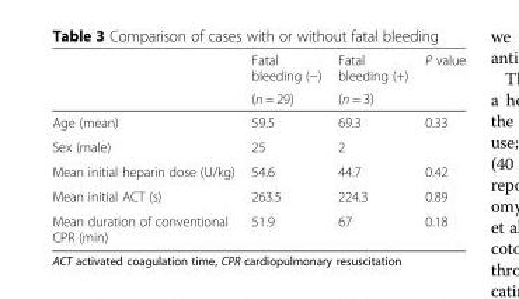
<table><thead><tr><td rowspan="2"></td><td rowspan="2">Fatal bleeding (−) (n = 29)</td><td rowspan="2">Fatal bleeding (+) (n = 3)</td><td rowspan="2">P value</td></tr><tr></tr></thead><tbody><tr><td>Age (mean)</td><td>59.5</td><td>69.3</td><td>0.33</td></tr><tr><td>Sex (male)</td><td>25</td><td>2</td><td></td></tr><tr><td>Mean initial heparin dose (U/kg)</td><td>54.6</td><td>44.7</td><td>0.42</td></tr><tr><td>Mean initial ACT (s)</td><td>263.5</td><td>224.3</td><td>0.89</td></tr><tr><td>Mean duration of conventional CPR (min)</td><td>51.9</td><td>67</td><td>0.18</td></tr></tbody></table>